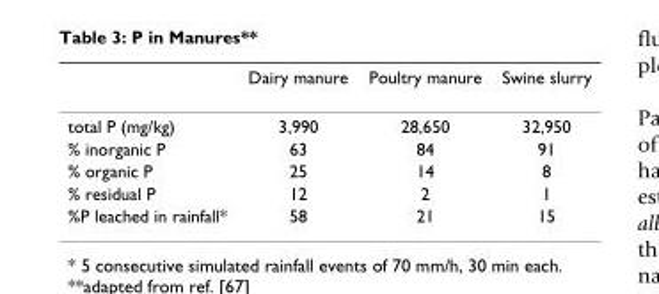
<table><thead><tr><td></td><td>Dairy manure</td><td>Poultry manure</td><td>Swine slurry</td></tr></thead><tbody><tr><td>total P (mg/kg)</td><td>3,990</td><td>28,650</td><td>32,950</td></tr><tr><td>% inorganic P</td><td>63</td><td>84</td><td>91</td></tr><tr><td>% organic P</td><td>25</td><td>14</td><td>8</td></tr><tr><td>% residual P</td><td>12</td><td>2</td><td>1</td></tr><tr><td>%P leached in rainfall*</td><td>58</td><td>21</td><td>15</td></tr></tbody></table>